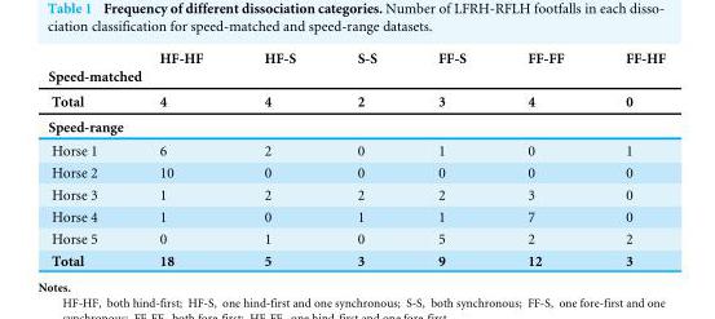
<table><thead><tr><td></td><td>HF-HF</td><td>HF-S</td><td>S-S</td><td>FF-S</td><td>FF-FF</td><td>FF-HF</td></tr><tr><td colspan="7">Speed-matched</td></tr><tr><td>Total</td><td>4</td><td>4</td><td>2</td><td>3</td><td>4</td><td>0</td></tr><tr><td colspan="7">Speed-range</td></tr></thead><tbody><tr><td>Horse 1</td><td>6</td><td>2</td><td>0</td><td>1</td><td>0</td><td>1</td></tr><tr><td>Horse 2</td><td>10</td><td>0</td><td>0</td><td>0</td><td>0</td><td>0</td></tr><tr><td>Horse 3</td><td>1</td><td>2</td><td>2</td><td>2</td><td>3</td><td>0</td></tr><tr><td>Horse 4</td><td>1</td><td>0</td><td>1</td><td>1</td><td>7</td><td>0</td></tr><tr><td>Horse 5</td><td>0</td><td>1</td><td>0</td><td>5</td><td>2</td><td>2</td></tr><tr><td>Total</td><td>18</td><td>5</td><td>3</td><td>9</td><td>12</td><td>3</td></tr></tbody></table>